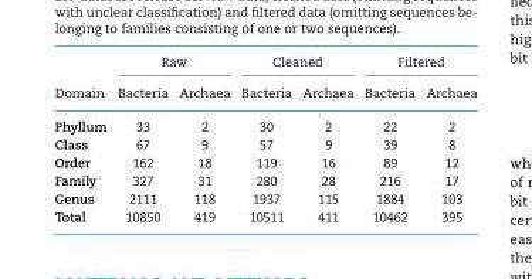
<table><thead><tr><td rowspan="2">Domain</td><td colspan="2">Raw</td><td colspan="2">Cleaned</td><td colspan="2">Filtered</td></tr><tr><td>Bacteria</td><td>Archaea</td><td>Bacteria</td><td>Archaea</td><td>Bacteria</td><td>Archaea</td></tr></thead><tbody><tr><td>Phyllum</td><td>33</td><td>2</td><td>30</td><td>2</td><td>22</td><td>2</td></tr><tr><td>Class</td><td>67</td><td>9</td><td>57</td><td>9</td><td>39</td><td>8</td></tr><tr><td>Order</td><td>162</td><td>18</td><td>119</td><td>16</td><td>89</td><td>12</td></tr><tr><td>Family</td><td>327</td><td>31</td><td>280</td><td>28</td><td>216</td><td>17</td></tr><tr><td>Genus</td><td>2111</td><td>118</td><td>1937</td><td>115</td><td>1884</td><td>103</td></tr><tr><td>Total</td><td>10850</td><td>419</td><td>10511</td><td>411</td><td>10462</td><td>395</td></tr></tbody></table>